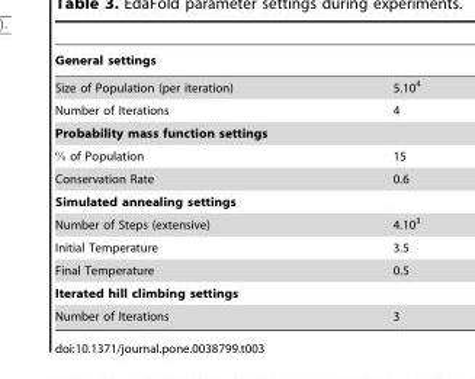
<table><thead><tr><td colspan="2">General settings</td></tr><tr><td>Size of Population (per iteration)</td><td>5.10<sup>4</sup></td></tr></thead><tbody><tr><td>Number of Iterations</td><td>4</td></tr><tr><td colspan="2">Probability mass function settings</td></tr><tr><td>% of Population</td><td>15</td></tr><tr><td>Conservation Rate</td><td>0.6</td></tr><tr><td colspan="2">Simulated annealing settings</td></tr><tr><td>Number of Steps (extensive)</td><td>4.10<sup>3</sup></td></tr><tr><td>Initial Temperature</td><td>3.5</td></tr><tr><td>Final Temperature</td><td>0.5</td></tr><tr><td colspan="2">Iterated hill climbing settings</td></tr><tr><td>Number of Iterations</td><td>3</td></tr></tbody></table>